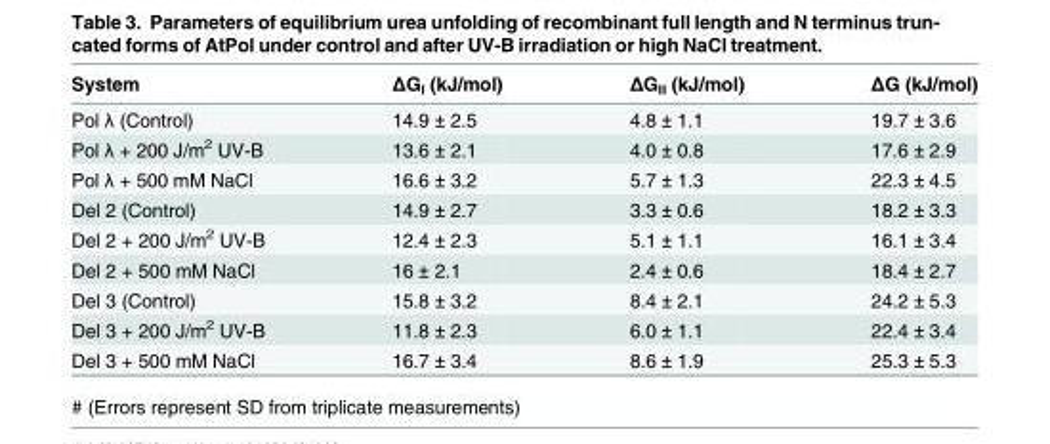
<table><thead><tr><td>System</td><td>ΔG<sub>I</sub> (kJ/mol)</td><td>ΔG<sub>II</sub> (kJ/mol)</td><td>ΔG (kJ/mol)</td></tr></thead><tbody><tr><td>Pol λ (Control)</td><td>14.9 ± 2.5</td><td>4.8 ± 1.1</td><td>19.7 ± 3.6</td></tr><tr><td>Pol λ + 200 J/m<sup>2</sup> UV-B</td><td>13.6 ± 2.1</td><td>4.0 ± 0.8</td><td>17.6 ± 2.9</td></tr><tr><td>Pol λ + 500 mM NaCl</td><td>16.6 ± 3.2</td><td>5.7 ± 1.3</td><td>22.3 ± 4.5</td></tr><tr><td>Del 2 (Control)</td><td>14.9 ± 2.7</td><td>3.3 ± 0.6</td><td>18.2 ± 3.3</td></tr><tr><td>Del 2 + 200 J/m<sup>2</sup> UV-B</td><td>12.4 ± 2.3</td><td>5.1 ± 1.1</td><td>16.1 ± 3.4</td></tr><tr><td>Del 2 + 500 mM NaCl</td><td>16 ± 2.1</td><td>2.4 ± 0.6</td><td>18.4 ± 2.7</td></tr><tr><td>Del 3 (Control)</td><td>15.8 ± 3.2</td><td>8.4 ± 2.1</td><td>24.2 ± 5.3</td></tr><tr><td>Del 3 + 200 J/m<sup>2</sup> UV-B</td><td>11.8 ± 2.3</td><td>6.0 ± 1.1</td><td>22.4 ± 3.4</td></tr><tr><td>Del 3 + 500 mM NaCl</td><td>16.7 ± 3.4</td><td>8.6 ± 1.9</td><td>25.3 ± 5.3</td></tr></tbody></table>